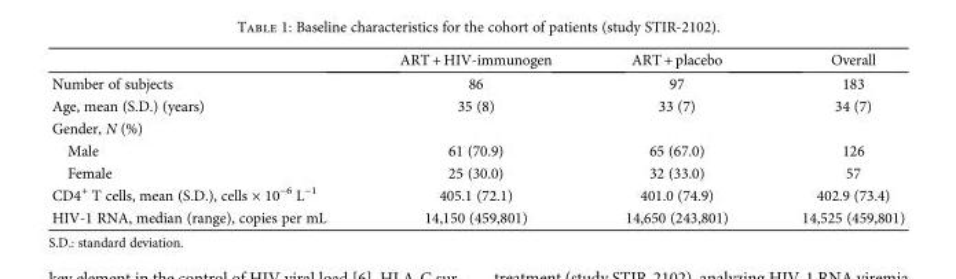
<table><thead><tr><td></td><td>ART + HIV-immunogen</td><td>ART + placebo</td><td>Overall</td></tr></thead><tbody><tr><td>Number of subjects</td><td>86</td><td>97</td><td>183</td></tr><tr><td>Age, mean (S.D.) (years)</td><td>35 (8)</td><td>33 (7)</td><td>34 (7)</td></tr><tr><td colspan="4">Gender, N (%)</td></tr><tr><td>Male</td><td>61 (70.9)</td><td>65 (67.0)</td><td>126</td></tr><tr><td>Female</td><td>25 (30.0)</td><td>32 (33.0)</td><td>57</td></tr><tr><td>CD4<sup>+</sup> T cells, mean (S.D.), cells × 10<sup>−6</sup> L<sup>−1</sup></td><td>405.1 (72.1)</td><td>401.0 (74.9)</td><td>402.9 (73.4)</td></tr><tr><td>HIV-1 RNA, median (range), copies per mL</td><td>14,150 (459,801)</td><td>14,650 (243,801)</td><td>14,525 (459,801)</td></tr></tbody></table>